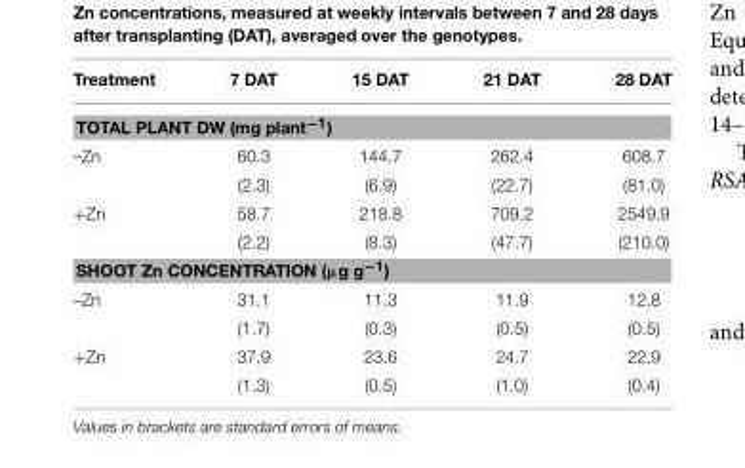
<table><thead><tr><td>Treatment</td><td>7 DAT</td><td>15 DAT</td><td>21 DAT</td><td>28 DAT</td></tr></thead><tbody><tr><td colspan="5">TOTAL PLANT DW (mg plant<sup>−1</sup>)</td></tr><tr><td rowspan="2">–Zn</td><td>60.3</td><td>144.7</td><td>262.4</td><td>608.7</td></tr><tr><td>(2.3)</td><td>(6.9)</td><td>(22.7)</td><td>(81.0)</td></tr><tr><td rowspan="2">+Zn</td><td>58.7</td><td>218.8</td><td>709.2</td><td>2549.9</td></tr><tr><td>(2.2)</td><td>(8.3)</td><td>(47.7)</td><td>(210.0)</td></tr><tr><td colspan="5">SHOOT Zn CONCENTRATION (µg g<sup>−1</sup>)</td></tr><tr><td rowspan="2">–Zn</td><td>31.1</td><td>11.3</td><td>11.9</td><td>12.8</td></tr><tr><td>(1.7)</td><td>(0.3)</td><td>(0.5)</td><td>(0.5)</td></tr><tr><td rowspan="2">+Zn</td><td>37.9</td><td>23.6</td><td>24.7</td><td>22.9</td></tr><tr><td>(1.3)</td><td>(0.5)</td><td>(1.0)</td><td>(0.4)</td></tr></tbody></table>